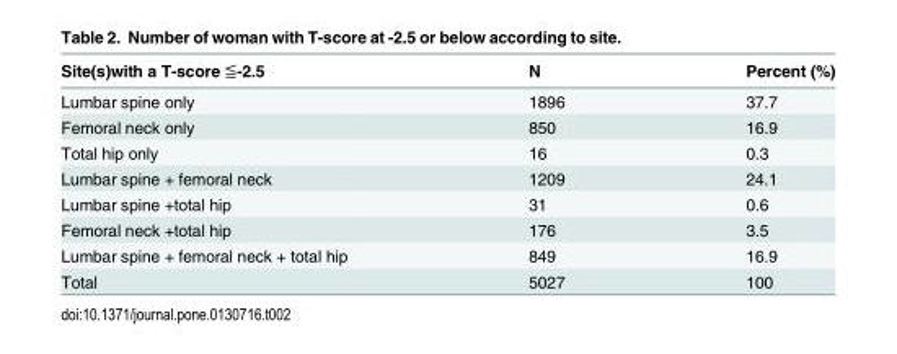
<table><thead><tr><td>Site(s)with a T-score ≦-2.5</td><td>N</td><td>Percent (%)</td></tr></thead><tbody><tr><td>Lumbar spine only</td><td>1896</td><td>37.7</td></tr><tr><td>Femoral neck only</td><td>850</td><td>16.9</td></tr><tr><td>Total hip only</td><td>16</td><td>0.3</td></tr><tr><td>Lumbar spine + femoral neck</td><td>1209</td><td>24.1</td></tr><tr><td>Lumbar spine +total hip</td><td>31</td><td>0.6</td></tr><tr><td>Femoral neck +total hip</td><td>176</td><td>3.5</td></tr><tr><td>Lumbar spine + femoral neck + total hip</td><td>849</td><td>16.9</td></tr><tr><td>Total</td><td>5027</td><td>100</td></tr></tbody></table>